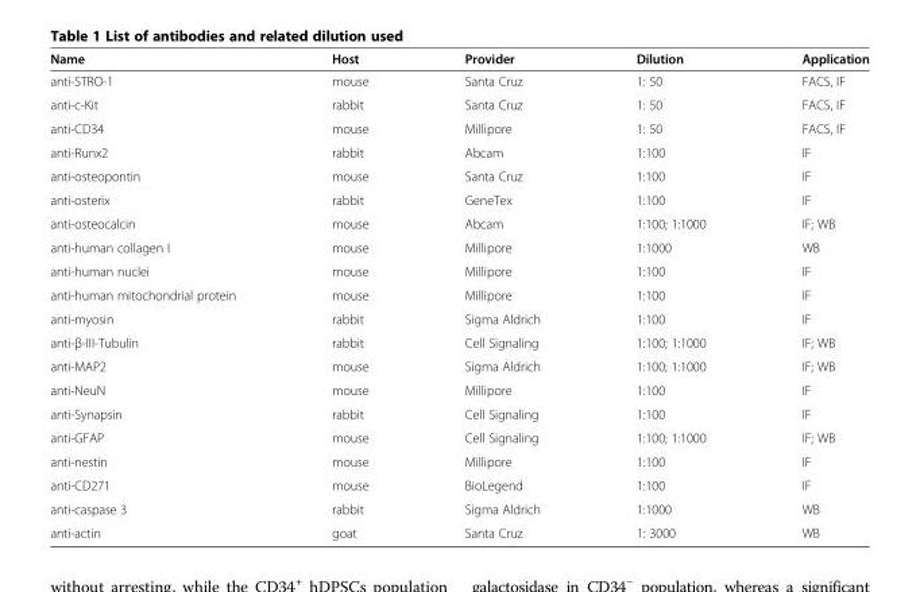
<table><thead><tr><td>Name</td><td>Host</td><td>Provider</td><td>Dilution</td><td>Application</td></tr></thead><tbody><tr><td>anti-STRO-1</td><td>mouse</td><td>Santa Cruz</td><td>1: 50</td><td>FACS, IF</td></tr><tr><td>anti-c-Kit</td><td>rabbit</td><td>Santa Cruz</td><td>1: 50</td><td>FACS, IF</td></tr><tr><td>anti-CD34</td><td>mouse</td><td>Millipore</td><td>1: 50</td><td>FACS, IF</td></tr><tr><td>anti-Runx2</td><td>rabbit</td><td>Abcam</td><td>1:100</td><td>IF</td></tr><tr><td>anti-osteopontin</td><td>mouse</td><td>Santa Cruz</td><td>1:100</td><td>IF</td></tr><tr><td>anti-osterix</td><td>rabbit</td><td>GeneTex</td><td>1:100</td><td>IF</td></tr><tr><td>anti-osteocalcin</td><td>mouse</td><td>Abcam</td><td>1:100; 1:1000</td><td>IF; WB</td></tr><tr><td>anti-human collagen I</td><td>mouse</td><td>Millipore</td><td>1:1000</td><td>WB</td></tr><tr><td>anti-human nuclei</td><td>mouse</td><td>Millipore</td><td>1:100</td><td>IF</td></tr><tr><td>anti-human mitochondrial protein</td><td>mouse</td><td>Millipore</td><td>1:100</td><td>IF</td></tr><tr><td>anti-myosin</td><td>rabbit</td><td>Sigma Aldrich</td><td>1:100</td><td>IF</td></tr><tr><td>anti-β-III-Tubulin</td><td>rabbit</td><td>Cell Signaling</td><td>1:100; 1:1000</td><td>IF; WB</td></tr><tr><td>anti-MAP2</td><td>mouse</td><td>Sigma Aldrich</td><td>1:100; 1:1000</td><td>IF; WB</td></tr><tr><td>anti-NeuN</td><td>mouse</td><td>Millipore</td><td>1:100</td><td>IF</td></tr><tr><td>anti-Synapsin</td><td>rabbit</td><td>Cell Signaling</td><td>1:100</td><td>IF</td></tr><tr><td>anti-GFAP</td><td>mouse</td><td>Cell Signaling</td><td>1:100; 1:1000</td><td>IF; WB</td></tr><tr><td>anti-nestin</td><td>mouse</td><td>Millipore</td><td>1:100</td><td>IF</td></tr><tr><td>anti-CD271</td><td>mouse</td><td>BioLegend</td><td>1:100</td><td>IF</td></tr><tr><td>anti-caspase 3</td><td>rabbit</td><td>Sigma Aldrich</td><td>1:1000</td><td>WB</td></tr><tr><td>anti-actin</td><td>goat</td><td>Santa Cruz</td><td>1: 3000</td><td>WB</td></tr></tbody></table>